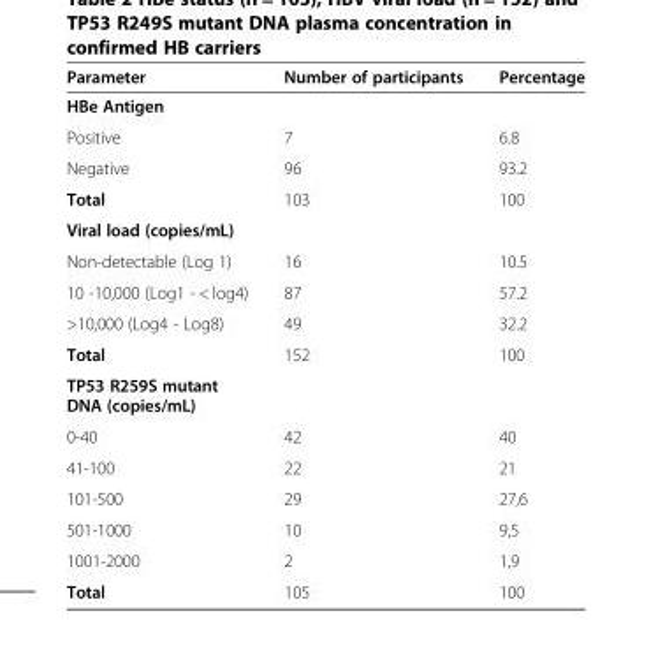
<table><thead><tr><td>Parameter</td><td>Number of participants</td><td>Percentage</td></tr></thead><tbody><tr><td colspan="3">HBe Antigen</td></tr><tr><td>Positive</td><td>7</td><td>6.8</td></tr><tr><td>Negative</td><td>96</td><td>93.2</td></tr><tr><td>Total</td><td>103</td><td>100</td></tr><tr><td colspan="3">Viral load (copies/mL)</td></tr><tr><td>Non-detectable (Log 1)</td><td>16</td><td>10.5</td></tr><tr><td>10 -10,000 (Log1 - &lt; log4)</td><td>87</td><td>57.2</td></tr><tr><td>&gt;10,000 (Log4 - Log8)</td><td>49</td><td>32.2</td></tr><tr><td>Total</td><td>152</td><td>100</td></tr><tr><td colspan="3">TP53 R259S mutant DNA (copies/mL)</td></tr><tr><td>0-40</td><td>42</td><td>40</td></tr><tr><td>41-100</td><td>22</td><td>21</td></tr><tr><td>101-500</td><td>29</td><td>27,6</td></tr><tr><td>501-1000</td><td>10</td><td>9,5</td></tr><tr><td>1001-2000</td><td>2</td><td>1,9</td></tr><tr><td>Total</td><td>105</td><td>100</td></tr></tbody></table>